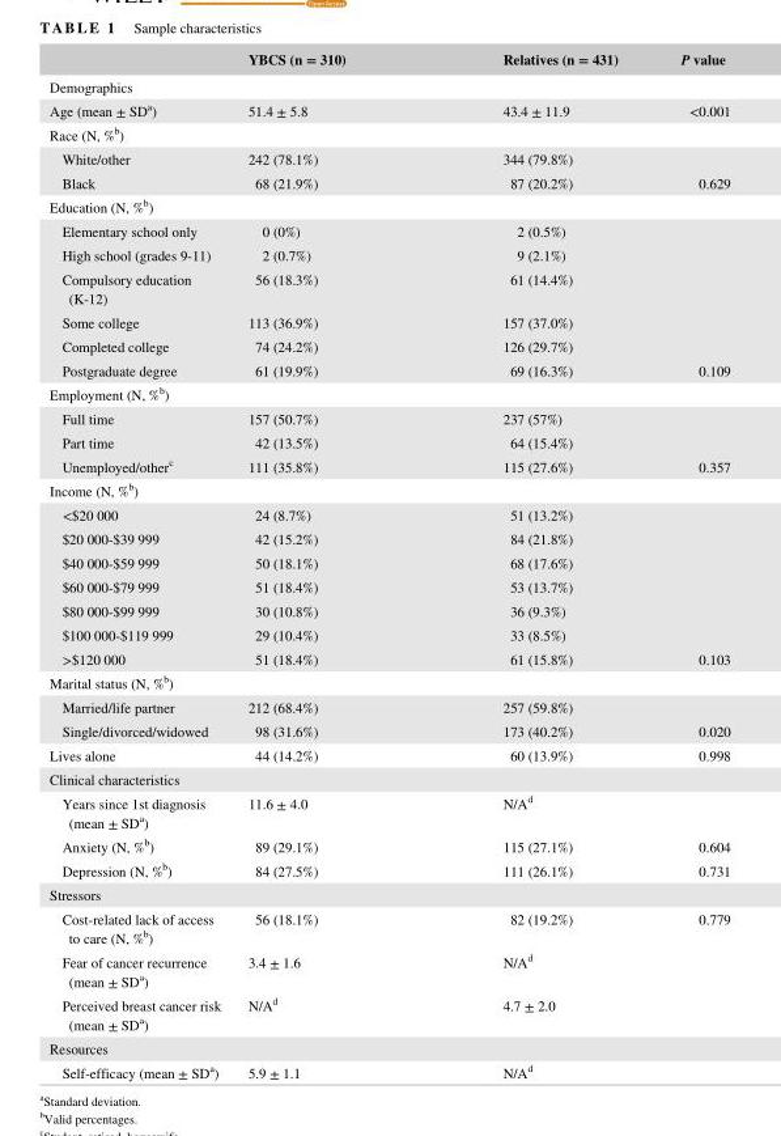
<table><thead><tr><td></td><td>YBCS (n = 310)</td><td>Relatives (n = 431)</td><td>P value</td></tr></thead><tbody><tr><td colspan="4">Demographics</td></tr><tr><td>Age (mean ± SD<sup>a</sup>)</td><td>51.4 ± 5.8</td><td>43.4 ± 11.9</td><td>&lt;0.001</td></tr><tr><td colspan="4">Race (N, %<sup>b</sup>)</td></tr><tr><td>White/other</td><td>242 (78.1%)</td><td>344 (79.8%)</td><td></td></tr><tr><td>Black</td><td>68 (21.9%)</td><td>87 (20.2%)</td><td>0.629</td></tr><tr><td colspan="4">Education (N, %<sup>b</sup>)</td></tr><tr><td>Elementary school only</td><td>0 (0%)</td><td>2 (0.5%)</td><td></td></tr><tr><td>High school (grades 9- 11)</td><td>2 (0.7%)</td><td>9 (2.1%)</td><td></td></tr><tr><td>Compulsory education (K- 12)</td><td>56 (18.3%)</td><td>61 (14.4%)</td><td></td></tr><tr><td>Some college</td><td>113 (36.9%)</td><td>157 (37.0%)</td><td></td></tr><tr><td>Completed college</td><td>74 (24.2%)</td><td>126 (29.7%)</td><td></td></tr><tr><td>Postgraduate degree</td><td>61 (19.9%)</td><td>69 (16.3%)</td><td>0.109</td></tr><tr><td colspan="4">Employment (N, %<sup>b</sup>)</td></tr><tr><td>Full time</td><td>157 (50.7%)</td><td>237 (57%)</td><td></td></tr><tr><td>Part time</td><td>42 (13.5%)</td><td>64 (15.4%)</td><td></td></tr><tr><td>Unemployed/other<sup>c</sup></td><td>111 (35.8%)</td><td>115 (27.6%)</td><td>0.357</td></tr><tr><td colspan="4">Income (N, %<sup>b</sup>)</td></tr><tr><td>&lt;$20 000</td><td>24 (8.7%)</td><td>51 (13.2%)</td><td></td></tr><tr><td>$20 000- $39 999</td><td>42 (15.2%)</td><td>84 (21.8%)</td><td></td></tr><tr><td>$40 000- $59 999</td><td>50 (18.1%)</td><td>68 (17.6%)</td><td></td></tr><tr><td>$60 000- $79 999</td><td>51 (18.4%)</td><td>53 (13.7%)</td><td></td></tr><tr><td>$80 000- $99 999</td><td>30 (10.8%)</td><td>36 (9.3%)</td><td></td></tr><tr><td>$100 000- $119 999</td><td>29 (10.4%)</td><td>33 (8.5%)</td><td></td></tr><tr><td>&gt;$120 000</td><td>51 (18.4%)</td><td>61 (15.8%)</td><td>0.103</td></tr><tr><td colspan="4">Marital status (N, %<sup>b</sup>)</td></tr><tr><td>Married/life partner</td><td>212 (68.4%)</td><td>257 (59.8%)</td><td></td></tr><tr><td>Single/divorced/widowed</td><td>98 (31.6%)</td><td>173 (40.2%)</td><td>0.020</td></tr><tr><td>Lives alone</td><td>44 (14.2%)</td><td>60 (13.9%)</td><td>0.998</td></tr><tr><td colspan="4">Clinical characteristics</td></tr><tr><td>Years since 1st diagnosis (mean ± SD<sup>a</sup>)</td><td>11.6 ± 4.0</td><td>N/A<sup>d</sup></td><td></td></tr><tr><td>Anxiety (N, %<sup>b</sup>)</td><td>89 (29.1%)</td><td>115 (27.1%)</td><td>0.604</td></tr><tr><td>Depression (N, %<sup>b</sup>)</td><td>84 (27.5%)</td><td>111 (26.1%)</td><td>0.731</td></tr><tr><td colspan="4">Stressors</td></tr><tr><td>Cost- related lack of access to care (N, %<sup>b</sup>)</td><td>56 (18.1%)</td><td>82 (19.2%)</td><td>0.779</td></tr><tr><td>Fear of cancer recurrence (mean ± SD<sup>a</sup>)</td><td>3.4 ± 1.6</td><td>N/A<sup>d</sup></td><td></td></tr><tr><td>Perceived breast cancer risk (mean ± SD<sup>a</sup>)</td><td>N/A<sup>d</sup></td><td>4.7 ± 2.0</td><td></td></tr><tr><td colspan="4">Resources</td></tr><tr><td>Self- efficacy (mean ± SD<sup>a</sup>)</td><td>5.9 ± 1.1</td><td>N/A<sup>d</sup></td><td></td></tr></tbody></table>